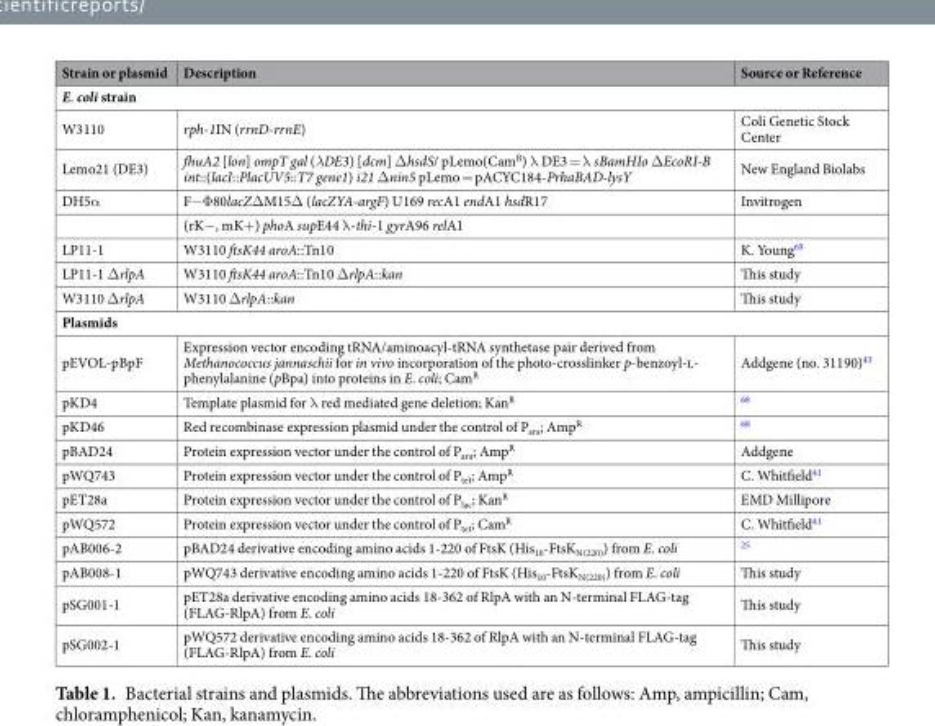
<table><thead><tr><td>Strain or plasmid</td><td>Description</td><td>Source or Reference</td></tr></thead><tbody><tr><td colspan="3">E. coli strain</td></tr><tr><td>W3110</td><td>rph-1IN (rrnD-rrnE)</td><td>Coli Genetic Stock Center</td></tr><tr><td>Lemo21 (DE3)</td><td>fhuA2 [lon] ompT gal (λDE3) [dcm] ΔhsdS/ pLemo(Cam<sup>R</sup>) λ DE3 = λ sBamHIo ΔEcoRI-B int::(lacI::PlacUV5::T7 gene1) i21 Δnin5 pLemo = pACYC184-PrhaBAD-lysY</td><td>New England Biolabs</td></tr><tr><td rowspan="2">DH5α</td><td>F−Φ80lacZΔM15Δ (lacZYA-argF) U169 recA1 endA1 hsdR17</td><td>Invitrogen</td></tr><tr><td>(rK−, mK+) phoA supE44 λ-thi-1 gyrA96 relA1</td><td></td></tr><tr><td>LP11-1</td><td>W3110 ftsK44 aroA::Tn10</td><td>K. Young<sup>69</sup></td></tr><tr><td>LP11-1 ΔrlpA</td><td>W3110 ftsK44 aroA::Tn10 ΔrlpA::kan</td><td>This study</td></tr><tr><td>W3110 ΔrlpA</td><td>W3110 ΔrlpA::kan</td><td>This study</td></tr><tr><td colspan="3">Plasmids</td></tr><tr><td>pEVOL-pBpF</td><td>Expression vector encoding tRNA/aminoacyl-tRNA synthetase pair derived from Methanococcus jannaschii for in vivo incorporation of the photo-crosslinker p-benzoyl-l- phenylalanine (pBpa) into proteins in E. coli; Cam<sup>R</sup></td><td>Addgene (no. 31190)<sup>43</sup></td></tr><tr><td>pKD4</td><td>Template plasmid for λ red mediated gene deletion; Kan<sup>R</sup></td><td><sup>68</sup></td></tr><tr><td>pKD46</td><td>Red recombinase expression plasmid under the control of P<sub>ara</sub>; Amp<sup>R</sup></td><td><sup>68</sup></td></tr><tr><td>pBAD24</td><td>Protein expression vector under the control of P<sub>ara</sub>; Amp<sup>R</sup></td><td>Addgene</td></tr><tr><td>pWQ743</td><td>Protein expression vector under the control of P<sub>tet</sub>; Amp<sup>R</sup></td><td>C. Whitfield<sup>41</sup></td></tr><tr><td>pET28a</td><td>Protein expression vector under the control of P<sub>lac</sub>; Kan<sup>R</sup></td><td>EMD Millipore</td></tr><tr><td>pWQ572</td><td>Protein expression vector under the control of P<sub>tet</sub>; Cam<sup>R</sup></td><td>C. Whitfield<sup>41</sup></td></tr><tr><td>pAB006-2</td><td>pBAD24 derivative encoding amino acids 1-220 of FtsK (His<sub>10</sub>-FtsK<sub>N(220)</sub>) from E. coli</td><td><sup>25</sup></td></tr><tr><td>pAB008-1</td><td>pWQ743 derivative encoding amino acids 1-220 of FtsK (His<sub>10</sub>-FtsK<sub>N(220)</sub>) from E. coli</td><td>This study</td></tr><tr><td>pSG001-1</td><td>pET28a derivative encoding amino acids 18-362 of RlpA with an N-terminal FLAG-tag (FLAG-RlpA) from E. coli</td><td>This study</td></tr><tr><td>pSG002-1</td><td>pWQ572 derivative encoding amino acids 18-362 of RlpA with an N-terminal FLAG-tag (FLAG-RlpA) from E. coli</td><td>This study</td></tr></tbody></table>